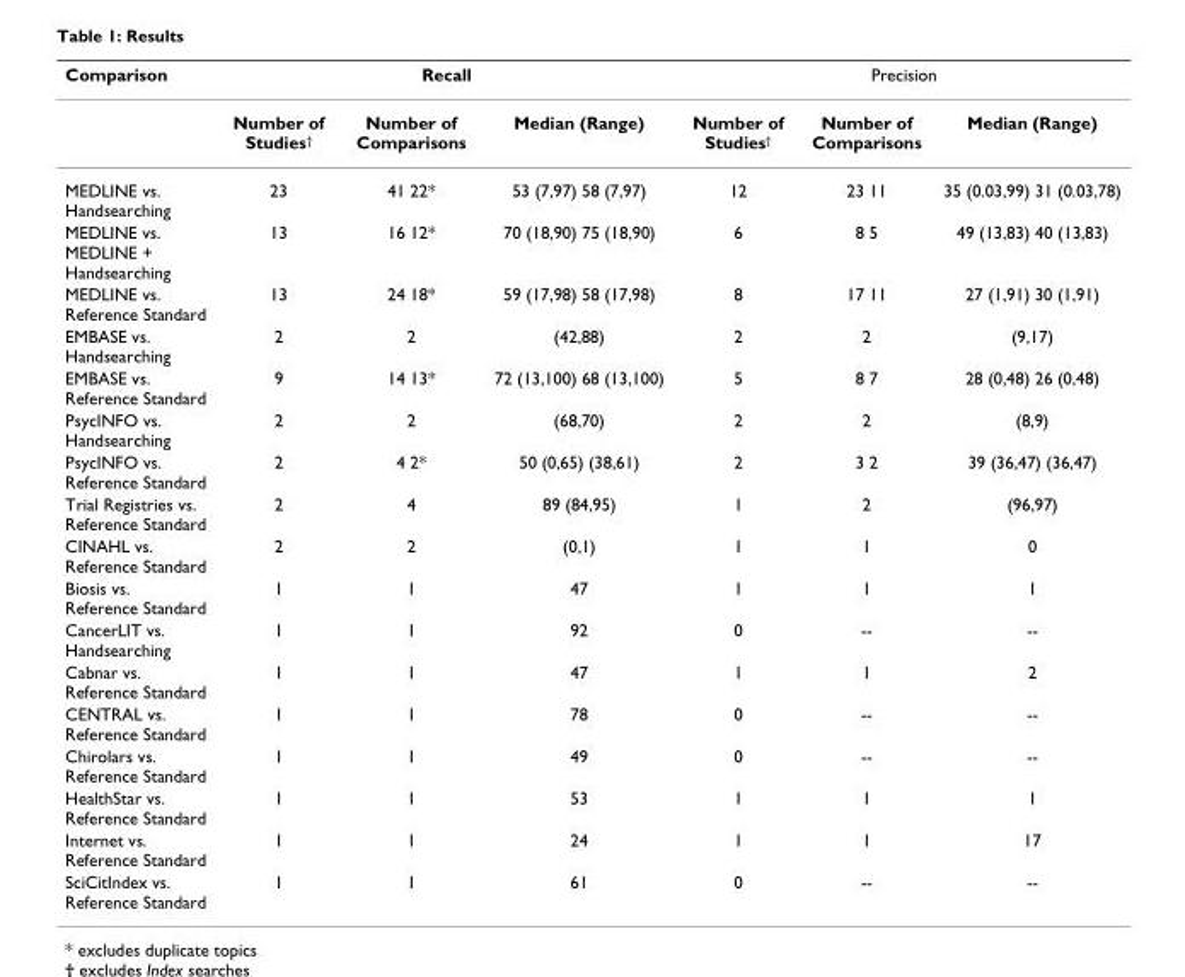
<table><thead><tr><td rowspan="2">Comparison</td><td colspan="3">Recall</td><td colspan="3">Precision</td></tr><tr><td>Number of Studies<sup>†</sup></td><td>Number of Comparisons</td><td>Median (Range)</td><td>Number of Studies<sup>†</sup></td><td>Number of Comparisons</td><td>Median (Range)</td></tr></thead><tbody><tr><td>MEDLINE vs. Handsearching</td><td>23</td><td>41 22*</td><td>53 (7,97) 58 (7,97)</td><td>12</td><td>23 11</td><td>35 (0.03,99) 31 (0.03,78)</td></tr><tr><td>MEDLINE vs. MEDLINE + Handsearching</td><td>13</td><td>16 12*</td><td>70 (18,90) 75 (18,90)</td><td>6</td><td>8 5</td><td>49 (13,83) 40 (13,83)</td></tr><tr><td>MEDLINE vs. Reference Standard</td><td>13</td><td>24 18*</td><td>59 (17,98) 58 (17,98)</td><td>8</td><td>17 11</td><td>27 (1,91) 30 (1,91)</td></tr><tr><td>EMBASE vs. Handsearching</td><td>2</td><td>2</td><td>(42,88)</td><td>2</td><td>2</td><td>(9,17)</td></tr><tr><td>EMBASE vs. Reference Standard</td><td>9</td><td>14 13*</td><td>72 (13,100) 68 (13,100)</td><td>5</td><td>8 7</td><td>28 (0,48) 26 (0,48)</td></tr><tr><td>PsycINFO vs. Handsearching</td><td>2</td><td>2</td><td>(68,70)</td><td>2</td><td>2</td><td>(8,9)</td></tr><tr><td>PsycINFO vs. Reference Standard</td><td>2</td><td>4 2*</td><td>50 (0,65) (38,61)</td><td>2</td><td>3 2</td><td>39 (36,47) (36,47)</td></tr><tr><td>Trial Registries vs. Reference Standard</td><td>2</td><td>4</td><td>89 (84,95)</td><td>1</td><td>2</td><td>(96,97)</td></tr><tr><td>CINAHL vs. Reference Standard</td><td>2</td><td>2</td><td>(0,1)</td><td>1</td><td>1</td><td>0</td></tr><tr><td>Biosis vs. Reference Standard</td><td>1</td><td>1</td><td>47</td><td>1</td><td>1</td><td>1</td></tr><tr><td>CancerLIT vs. Handsearching</td><td>1</td><td>1</td><td>92</td><td>0</td><td>--</td><td>--</td></tr><tr><td>Cabnar vs. Reference Standard</td><td>1</td><td>1</td><td>47</td><td>1</td><td>1</td><td>2</td></tr><tr><td>CENTRAL vs. Reference Standard</td><td>1</td><td>1</td><td>78</td><td>0</td><td>--</td><td>--</td></tr><tr><td>Chirolars vs. Reference Standard</td><td>1</td><td>1</td><td>49</td><td>0</td><td>--</td><td>--</td></tr><tr><td>HealthStar vs. Reference Standard</td><td>1</td><td>1</td><td>53</td><td>1</td><td>1</td><td>1</td></tr><tr><td>Internet vs. Reference Standard</td><td>1</td><td>1</td><td>24</td><td>1</td><td>1</td><td>17</td></tr><tr><td>SciCitIndex vs. Reference Standard</td><td>1</td><td>1</td><td>61</td><td>0</td><td>--</td><td>--</td></tr></tbody></table>